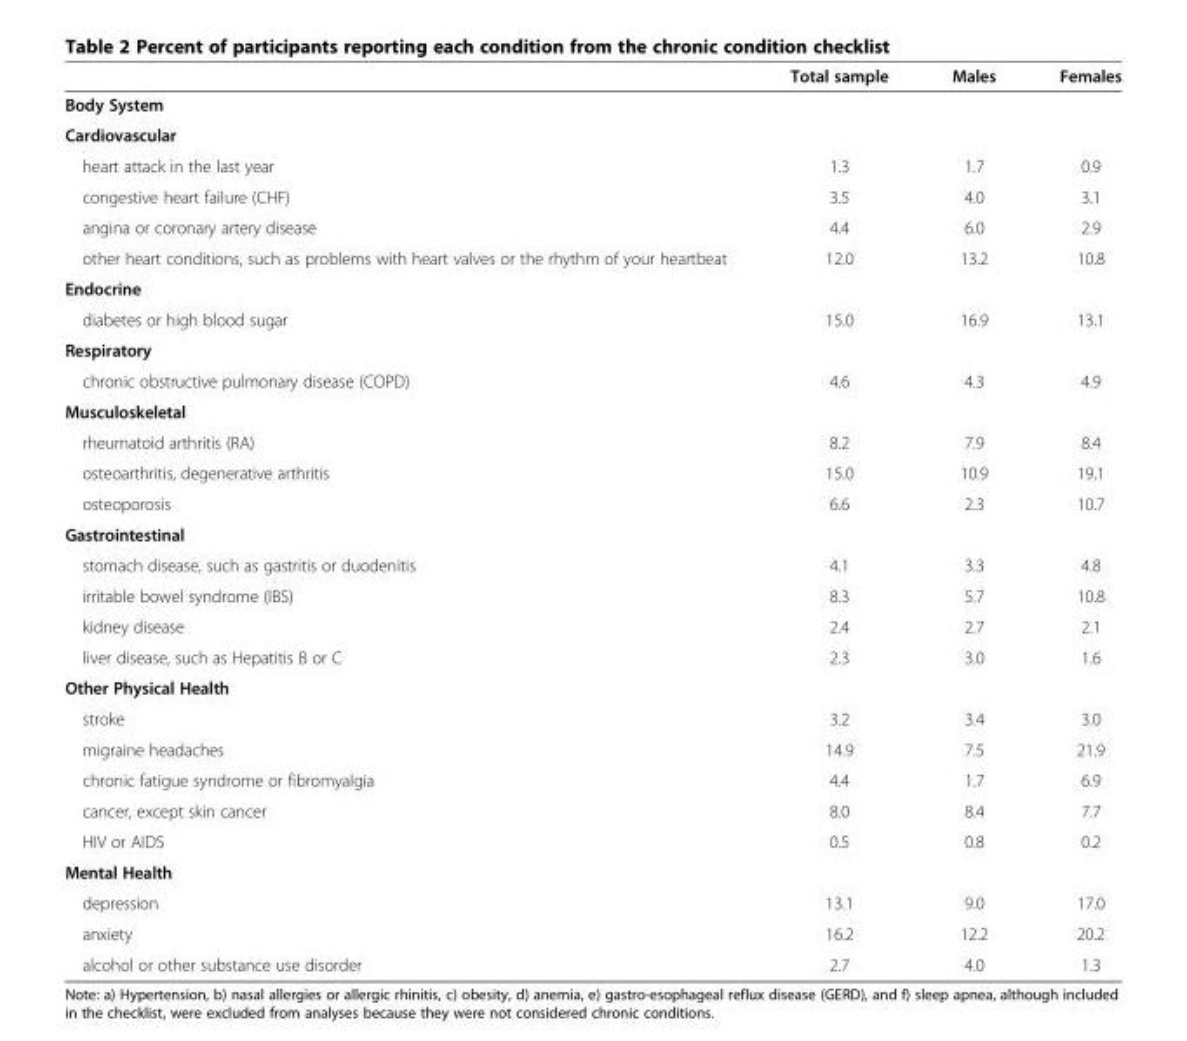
<table><thead><tr><td></td><td>Total sample</td><td>Males</td><td>Females</td></tr></thead><tbody><tr><td colspan="4">Body System</td></tr><tr><td colspan="4">Cardiovascular</td></tr><tr><td>heart attack in the last year</td><td>1.3</td><td>1.7</td><td>0.9</td></tr><tr><td>congestive heart failure (CHF)</td><td>3.5</td><td>4.0</td><td>3.1</td></tr><tr><td>angina or coronary artery disease</td><td>4.4</td><td>6.0</td><td>2.9</td></tr><tr><td>other heart conditions, such as problems with heart valves or the rhythm of your heartbeat</td><td>12.0</td><td>13.2</td><td>10.8</td></tr><tr><td colspan="4">Endocrine</td></tr><tr><td>diabetes or high blood sugar</td><td>15.0</td><td>16.9</td><td>13.1</td></tr><tr><td colspan="4">Respiratory</td></tr><tr><td>chronic obstructive pulmonary disease (COPD)</td><td>4.6</td><td>4.3</td><td>4.9</td></tr><tr><td colspan="4">Musculoskeletal</td></tr><tr><td>rheumatoid arthritis (RA)</td><td>8.2</td><td>7.9</td><td>8.4</td></tr><tr><td>osteoarthritis, degenerative arthritis</td><td>15.0</td><td>10.9</td><td>19.1</td></tr><tr><td>osteoporosis</td><td>6.6</td><td>2.3</td><td>10.7</td></tr><tr><td colspan="4">Gastrointestinal</td></tr><tr><td>stomach disease, such as gastritis or duodenitis</td><td>4.1</td><td>3.3</td><td>4.8</td></tr><tr><td>irritable bowel syndrome (IBS)</td><td>8.3</td><td>5.7</td><td>10.8</td></tr><tr><td>kidney disease</td><td>2.4</td><td>2.7</td><td>2.1</td></tr><tr><td>liver disease, such as Hepatitis B or C</td><td>2.3</td><td>3.0</td><td>1.6</td></tr><tr><td colspan="4">Other Physical Health</td></tr><tr><td>stroke</td><td>3.2</td><td>3.4</td><td>3.0</td></tr><tr><td>migraine headaches</td><td>14.9</td><td>7.5</td><td>21.9</td></tr><tr><td>chronic fatigue syndrome or fibromyalgia</td><td>4.4</td><td>1.7</td><td>6.9</td></tr><tr><td>cancer, except skin cancer</td><td>8.0</td><td>8.4</td><td>7.7</td></tr><tr><td>HIV or AIDS</td><td>0.5</td><td>0.8</td><td>0.2</td></tr><tr><td colspan="4">Mental Health</td></tr><tr><td>depression</td><td>13.1</td><td>9.0</td><td>17.0</td></tr><tr><td>anxiety</td><td>16.2</td><td>12.2</td><td>20.2</td></tr><tr><td>alcohol or other substance use disorder</td><td>2.7</td><td>4.0</td><td>1.3</td></tr></tbody></table>